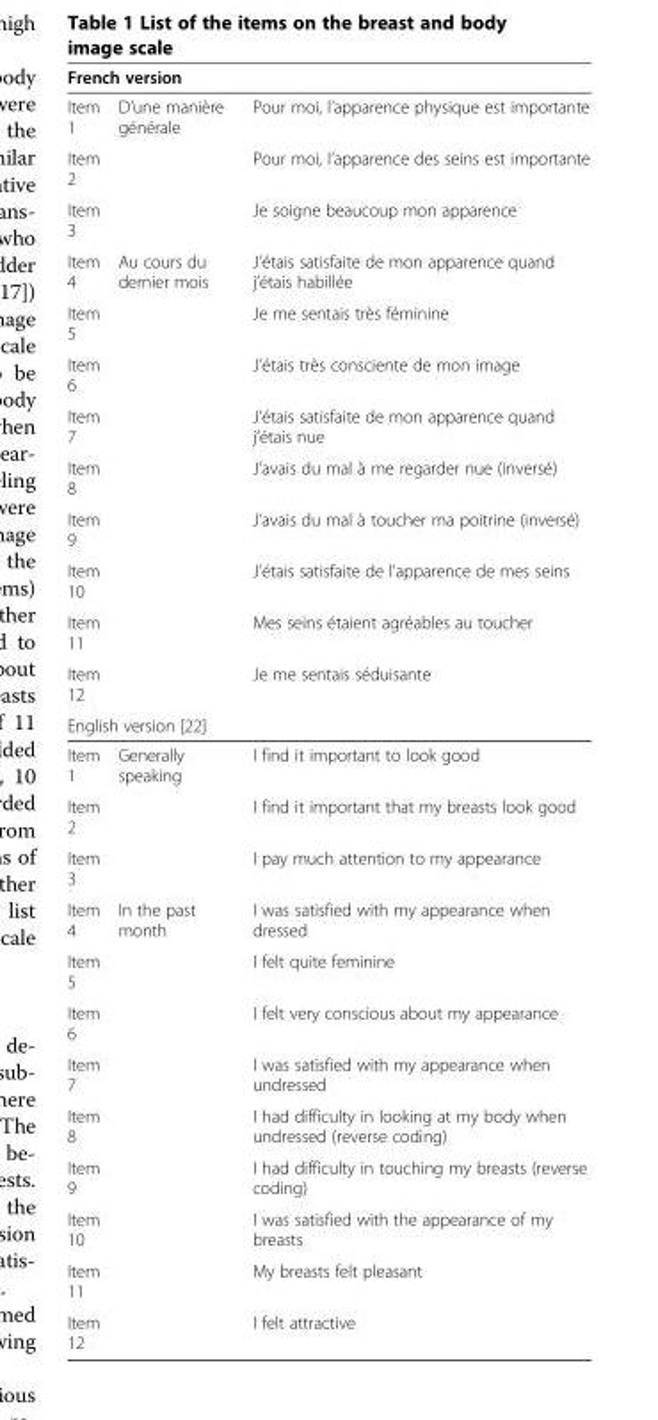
<table><thead><tr><td colspan="3">French version</td></tr><tr><td>Item 1</td><td>D’une manière générale</td><td>Pour moi, l’apparence physique est importante</td></tr></thead><tbody><tr><td>Item 2</td><td></td><td>Pour moi, l’apparence des seins est importante</td></tr><tr><td>Item 3</td><td></td><td>Je soigne beaucoup mon apparence</td></tr><tr><td>Item 4</td><td>Au cours du dernier mois</td><td>J’étais satisfaite de mon apparence quand j’étais habillée</td></tr><tr><td>Item 5</td><td></td><td>Je me sentais très féminine</td></tr><tr><td>Item 6</td><td></td><td>J’étais très consciente de mon image</td></tr><tr><td>Item 7</td><td></td><td>J’étais satisfaite de mon apparence quand j’étais nue</td></tr><tr><td>Item 8</td><td></td><td>J’avais du mal à me regarder nue (inversé)</td></tr><tr><td>Item 9</td><td></td><td>J’avais du mal à toucher ma poitrine (inversé)</td></tr><tr><td>Item 10</td><td></td><td>J’étais satisfaite de l’apparence de mes seins</td></tr><tr><td>Item 11</td><td></td><td>Mes seins étaient agréables au toucher</td></tr><tr><td>Item 12</td><td></td><td>Je me sentais séduisante</td></tr><tr><td colspan="3">English version [22]</td></tr><tr><td>Item 1</td><td>Generally speaking</td><td>I find it important to look good</td></tr><tr><td>Item 2</td><td></td><td>I find it important that my breasts look good</td></tr><tr><td>Item 3</td><td></td><td>I pay much attention to my appearance</td></tr><tr><td>Item 4</td><td>In the past month</td><td>I was satisfied with my appearance when dressed</td></tr><tr><td>Item 5</td><td></td><td>I felt quite feminine</td></tr><tr><td>Item 6</td><td></td><td>I felt very conscious about my appearance</td></tr><tr><td>Item 7</td><td></td><td>I was satisfied with my appearance when undressed</td></tr><tr><td>Item 8</td><td></td><td>I had difficulty in looking at my body when undressed (reverse coding)</td></tr><tr><td>Item 9</td><td></td><td>I had difficulty in touching my breasts (reverse coding)</td></tr><tr><td>Item 10</td><td></td><td>I was satisfied with the appearance of my breasts</td></tr><tr><td>Item 11</td><td></td><td>My breasts felt pleasant</td></tr><tr><td>Item 12</td><td></td><td>I felt attractive</td></tr></tbody></table>